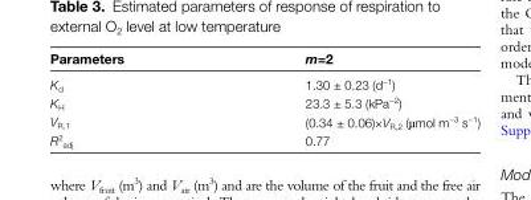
<table><thead><tr><td>Parameters</td><td>m=2</td></tr></thead><tbody><tr><td>K<sub>d</sub></td><td>1.30 ± 0.23 (d<sup>−1</sup>)</td></tr><tr><td>K<sub>H</sub></td><td>23.3 ± 5.3 (kPa<sup>−2</sup>)</td></tr><tr><td>V<sub>R,1</sub></td><td>(0.34 ± 0.06)×V<sub>R,2</sub> (µmol m<sup>−3</sup> s<sup>−1</sup>)</td></tr><tr><td>R<sup>2</sup> <sub>adj</sub></td><td>0.77</td></tr></tbody></table>